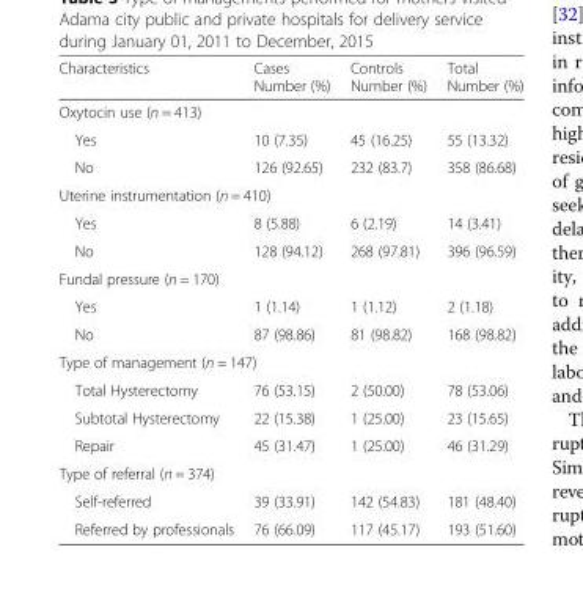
<table><thead><tr><td>Characteristics</td><td>Cases Number (%)</td><td>Controls Number (%)</td><td>Total Number (%)</td></tr></thead><tbody><tr><td colspan="4">Oxytocin use (n = 413)</td></tr><tr><td>Yes</td><td>10 (7.35)</td><td>45 (16.25)</td><td>55 (13.32)</td></tr><tr><td>No</td><td>126 (92.65)</td><td>232 (83.7)</td><td>358 (86.68)</td></tr><tr><td colspan="4">Uterine instrumentation (n = 410)</td></tr><tr><td>Yes</td><td>8 (5.88)</td><td>6 (2.19)</td><td>14 (3.41)</td></tr><tr><td>No</td><td>128 (94.12)</td><td>268 (97.81)</td><td>396 (96.59)</td></tr><tr><td colspan="4">Fundal pressure (n = 170)</td></tr><tr><td>Yes</td><td>1 (1.14)</td><td>1 (1.12)</td><td>2 (1.18)</td></tr><tr><td>No</td><td>87 (98.86)</td><td>81 (98.82)</td><td>168 (98.82)</td></tr><tr><td colspan="4">Type of management (n = 147)</td></tr><tr><td>Total Hysterectomy</td><td>76 (53.15)</td><td>2 (50.00)</td><td>78 (53.06)</td></tr><tr><td>Subtotal Hysterectomy</td><td>22 (15.38)</td><td>1 (25.00)</td><td>23 (15.65)</td></tr><tr><td>Repair</td><td>45 (31.47)</td><td>1 (25.00)</td><td>46 (31.29)</td></tr><tr><td colspan="4">Type of referral (n = 374)</td></tr><tr><td>Self-referred</td><td>39 (33.91)</td><td>142 (54.83)</td><td>181 (48.40)</td></tr><tr><td>Referred by professionals</td><td>76 (66.09)</td><td>117 (45.17)</td><td>193 (51.60)</td></tr></tbody></table>